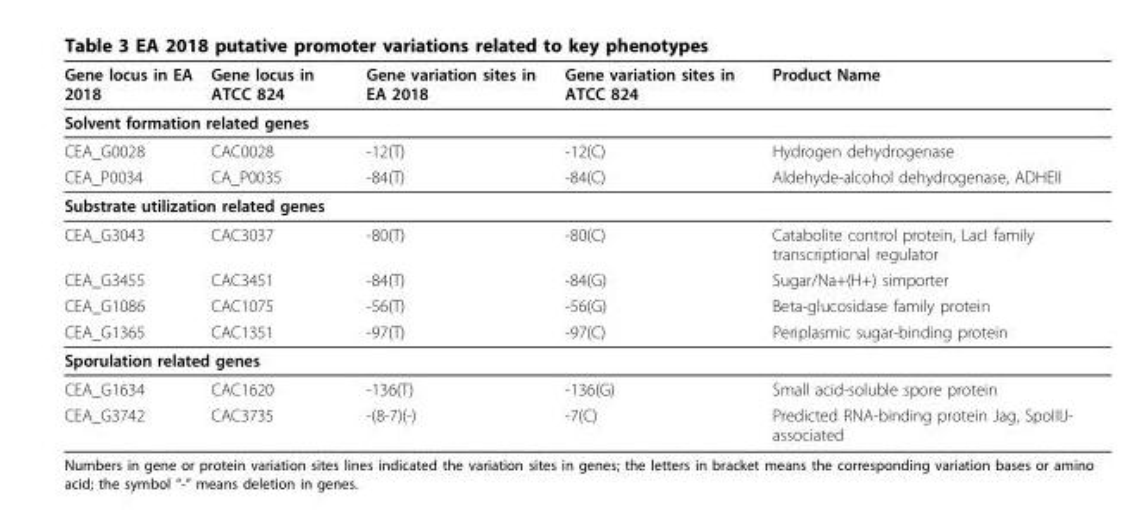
<table><thead><tr><td>Gene locus in EA 2018</td><td>Gene locus in ATCC 824</td><td>Gene variation sites in EA 2018</td><td>Gene variation sites in ATCC 824</td><td>Product Name</td></tr></thead><tbody><tr><td colspan="5">Solvent formation related genes</td></tr><tr><td>CEA_G0028</td><td>CAC0028</td><td>-12(T)</td><td>-12(C)</td><td>Hydrogen dehydrogenase</td></tr><tr><td>CEA_P0034</td><td>CA_P0035</td><td>-84(T)</td><td>-84(C)</td><td>Aldehyde-alcohol dehydrogenase, ADHEII</td></tr><tr><td colspan="5">Substrate utilization related genes</td></tr><tr><td>CEA_G3043</td><td>CAC3037</td><td>-80(T)</td><td>-80(C)</td><td>Catabolite control protein, LacI family transcriptional regulator</td></tr><tr><td>CEA_G3455</td><td>CAC3451</td><td>-84(T)</td><td>-84(G)</td><td>Sugar/Na+(H+) simporter</td></tr><tr><td>CEA_G1086</td><td>CAC1075</td><td>-56(T)</td><td>-56(G)</td><td>Beta-glucosidase family protein</td></tr><tr><td>CEA_G1365</td><td>CAC1351</td><td>-97(T)</td><td>-97(C)</td><td>Periplasmic sugar-binding protein</td></tr><tr><td colspan="5">Sporulation related genes</td></tr><tr><td>CEA_G1634</td><td>CAC1620</td><td>-136(T)</td><td>-136(G)</td><td>Small acid-soluble spore protein</td></tr><tr><td>CEA_G3742</td><td>CAC3735</td><td>-(8-7)(-)</td><td>-7(C)</td><td>Predicted RNA-binding protein Jag, SpoIIIJ- associated</td></tr></tbody></table>